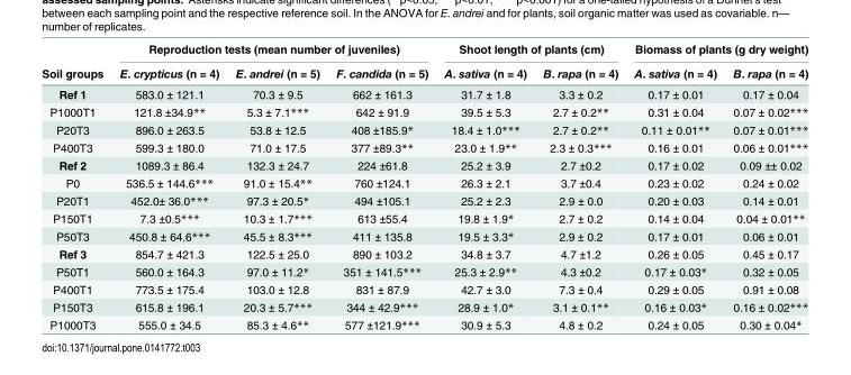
<table><thead><tr><td rowspan="2">Soil groups</td><td colspan="3">Reproduction tests (mean number of juveniles)</td><td colspan="2">Shoot length of plants (cm)</td><td colspan="2">Biomass of plants (g dry weight)</td></tr><tr><td>E. crypticus (n = 4)</td><td>E. andrei (n = 5)</td><td>F. candida (n = 5)</td><td>A. sativa (n = 4)</td><td>B. rapa (n = 4)</td><td>A. sativa (n = 4)</td><td>B. rapa (n = 4)</td></tr></thead><tbody><tr><td>Ref 1</td><td>583.0 ± 121.1</td><td>70.3 ± 9.5</td><td>662 ± 161.3</td><td>31.7 ± 1.8</td><td>3.3 ± 0.2</td><td>0.17 ± 0.01</td><td>0.17 ± 0.04</td></tr><tr><td>P1000T1</td><td>121.8 ±34.9**</td><td>5.3 ± 7.1***</td><td>642 ± 91.9</td><td>39.5 ± 5.3</td><td>2.7 ± 0.2**</td><td>0.31 ± 0.04</td><td>0.07 ± 0.02***</td></tr><tr><td>P20T3</td><td>896.0 ± 263.5</td><td>53.8 ± 12.5</td><td>408 ±185.9*</td><td>18.4 ± 1.0***</td><td>2.7 ± 0.2**</td><td>0.11 ± 0.01**</td><td>0.07 ± 0.01***</td></tr><tr><td>P400T3</td><td>599.3 ± 180.0</td><td>71.0 ± 17.5</td><td>377 ±89.3**</td><td>23.0 ± 1.9**</td><td>2.3 ± 0.3***</td><td>0.16 ± 0.01</td><td>0.06 ± 0.01***</td></tr><tr><td>Ref 2</td><td>1089.3 ± 86.4</td><td>132.3 ± 24.7</td><td>224 ±61.8</td><td>25.2 ± 3.9</td><td>2.7 ±0.2</td><td>0.17 ± 0.02</td><td>0.09 ±± 0.02</td></tr><tr><td>P0</td><td>536.5 ± 144.6***</td><td>91.0 ± 15.4**</td><td>760 ±124.1</td><td>26.3 ± 2.1</td><td>3.7 ±0.4</td><td>0.23 ± 0.02</td><td>0.24 ± 0.02</td></tr><tr><td>P20T1</td><td>452.0± 36.0***</td><td>97.3 ± 20.5*</td><td>494 ±105.1</td><td>25.2 ± 2.3</td><td>2.9 ± 0.0</td><td>0.20 ± 0.03</td><td>0.14 ± 0.01</td></tr><tr><td>P150T1</td><td>7.3 ±0.5***</td><td>10.3 ± 1.7***</td><td>613 ±55.4</td><td>19.8 ± 1.9*</td><td>2.7 ± 0.2</td><td>0.14 ± 0.04</td><td>0.04 ± 0.01**</td></tr><tr><td>P50T3</td><td>450.8 ± 64.6***</td><td>45.5 ± 8.3***</td><td>411 ± 135.8</td><td>19.5 ± 3.3*</td><td>2.9 ± 0.2</td><td>0.17 ± 0.01</td><td>0.06 ± 0.01</td></tr><tr><td>Ref 3</td><td>854.7 ± 421.3</td><td>122.5 ± 25.0</td><td>890 ± 103.2</td><td>34.8 ± 3.7</td><td>4.7 ±1.2</td><td>0.26 ± 0.05</td><td>0.45 ± 0.17</td></tr><tr><td>P50T1</td><td>560.0 ± 164.3</td><td>97.0 ± 11.2*</td><td>351 ± 141.5***</td><td>25.3 ± 2.9**</td><td>4.3 ±0.2</td><td>0.17 ± 0.03*</td><td>0.32 ± 0.05</td></tr><tr><td>P400T1</td><td>773.5 ± 175.4</td><td>103.0 ± 12.8</td><td>831 ± 87.9</td><td>42.7 ± 3.0</td><td>7.3 ± 0.4</td><td>0.29 ± 0.05</td><td>0.91 ± 0.08</td></tr><tr><td>P150T3</td><td>615.8 ± 196.1</td><td>20.3 ± 5.7***</td><td>344 ± 42.9***</td><td>28.9 ± 1.0*</td><td>3.1 ± 0.1**</td><td>0.16 ± 0.03*</td><td>0.16 ± 0.02***</td></tr><tr><td>P1000T3</td><td>555.0 ± 34.5</td><td>85.3 ± 4.6**</td><td>577 ±121.9***</td><td>30.9 ± 5.3</td><td>4.8 ± 0.2</td><td>0.24 ± 0.05</td><td>0.30 ± 0.04*</td></tr></tbody></table>